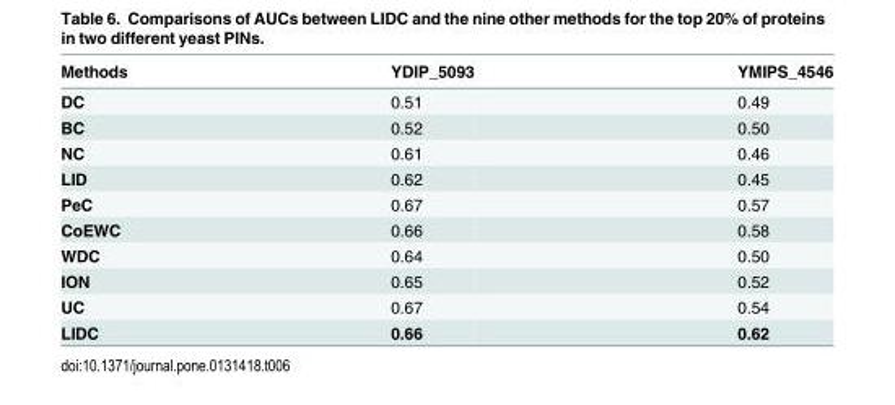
<table><thead><tr><td>Methods</td><td>YDIP_5093</td><td>YMIPS_4546</td></tr></thead><tbody><tr><td>DC</td><td>0.51</td><td>0.49</td></tr><tr><td>BC</td><td>0.52</td><td>0.50</td></tr><tr><td>NC</td><td>0.61</td><td>0.46</td></tr><tr><td>LID</td><td>0.62</td><td>0.45</td></tr><tr><td>PeC</td><td>0.67</td><td>0.57</td></tr><tr><td>CoEWC</td><td>0.66</td><td>0.58</td></tr><tr><td>WDC</td><td>0.64</td><td>0.50</td></tr><tr><td>ION</td><td>0.65</td><td>0.52</td></tr><tr><td>UC</td><td>0.67</td><td>0.54</td></tr><tr><td>LIDC</td><td>0.66</td><td>0.62</td></tr></tbody></table>